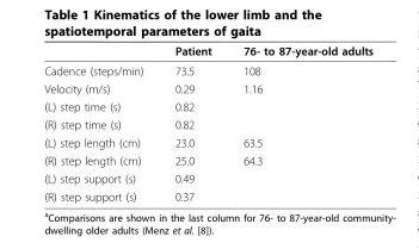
<table><thead><tr><td></td><td>Patient</td><td>76- to 87-year-old adults</td></tr></thead><tbody><tr><td>Cadence (steps/min)</td><td>73.5</td><td>108</td></tr><tr><td>Velocity (m/s)</td><td>0.29</td><td>1.16</td></tr><tr><td>(L) step time (s)</td><td>0.82</td><td></td></tr><tr><td>(R) step time (s)</td><td>0.82</td><td></td></tr><tr><td>(L) step length (cm)</td><td>23.0</td><td>63.5</td></tr><tr><td>(R) step length (cm)</td><td>25.0</td><td>64.3</td></tr><tr><td>(L) step support (s)</td><td>0.49</td><td></td></tr><tr><td>(R) step support (s)</td><td>0.37</td><td></td></tr></tbody></table>